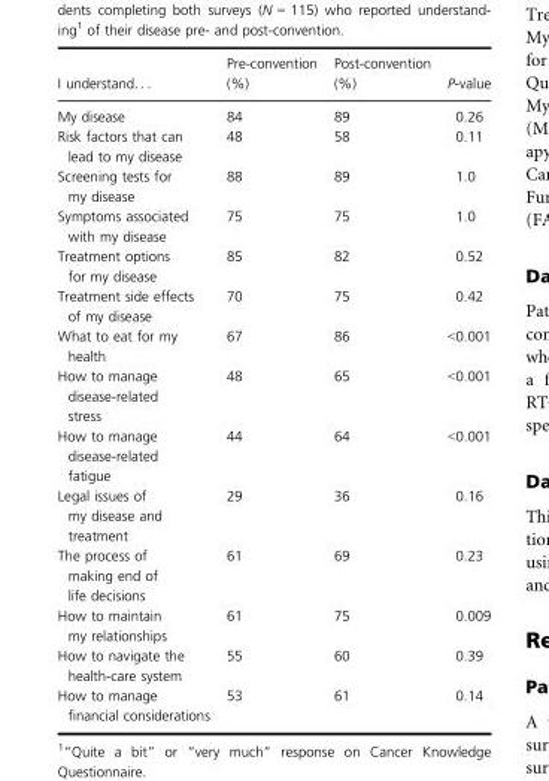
<table><thead><tr><td>I understand. . .</td><td>Pre-convention (%)</td><td>Post-convention (%)</td><td>P-value</td></tr></thead><tbody><tr><td>My disease</td><td>84</td><td>89</td><td>0.26</td></tr><tr><td>Risk factors that can lead to my disease</td><td>48</td><td>58</td><td>0.11</td></tr><tr><td>Screening tests for my disease</td><td>88</td><td>89</td><td>1.0</td></tr><tr><td>Symptoms associated with my disease</td><td>75</td><td>75</td><td>1.0</td></tr><tr><td>Treatment options for my disease</td><td>85</td><td>82</td><td>0.52</td></tr><tr><td>Treatment side effects of my disease</td><td>70</td><td>75</td><td>0.42</td></tr><tr><td>What to eat for my health</td><td>67</td><td>86</td><td>&lt;0.001</td></tr><tr><td>How to manage disease-related stress</td><td>48</td><td>65</td><td>&lt;0.001</td></tr><tr><td>How to manage disease-related fatigue</td><td>44</td><td>64</td><td>&lt;0.001</td></tr><tr><td>Legal issues of my disease and treatment</td><td>29</td><td>36</td><td>0.16</td></tr><tr><td>The process of making end of life decisions</td><td>61</td><td>69</td><td>0.23</td></tr><tr><td>How to maintain my relationships</td><td>61</td><td>75</td><td>0.009</td></tr><tr><td>How to navigate the health-care system</td><td>55</td><td>60</td><td>0.39</td></tr><tr><td>How to manage financial considerations</td><td>53</td><td>61</td><td>0.14</td></tr></tbody></table>